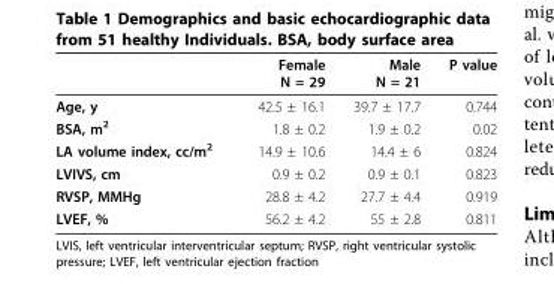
<table><thead><tr><td></td><td>Female N = 29</td><td>Male N = 21</td><td>P value</td></tr></thead><tbody><tr><td>Age, y</td><td>42.5 ± 16.1</td><td>39.7 ± 17.7</td><td>0.744</td></tr><tr><td>BSA, m<sup>2</sup></td><td>1.8 ± 0.2</td><td>1.9 ± 0.2</td><td>0.02</td></tr><tr><td>LA volume index, cc/m<sup>2</sup></td><td>14.9 ± 10.6</td><td>14.4 ± 6</td><td>0.824</td></tr><tr><td>LVIVS, cm</td><td>0.9 ± 0.2</td><td>0.9 ± 0.1</td><td>0.823</td></tr><tr><td>RVSP, MMHg</td><td>28.8 ± 4.2</td><td>27.7 ± 4.4</td><td>0.919</td></tr><tr><td>LVEF, %</td><td>56.2 ± 4.2</td><td>55 ± 2.8</td><td>0.811</td></tr></tbody></table>